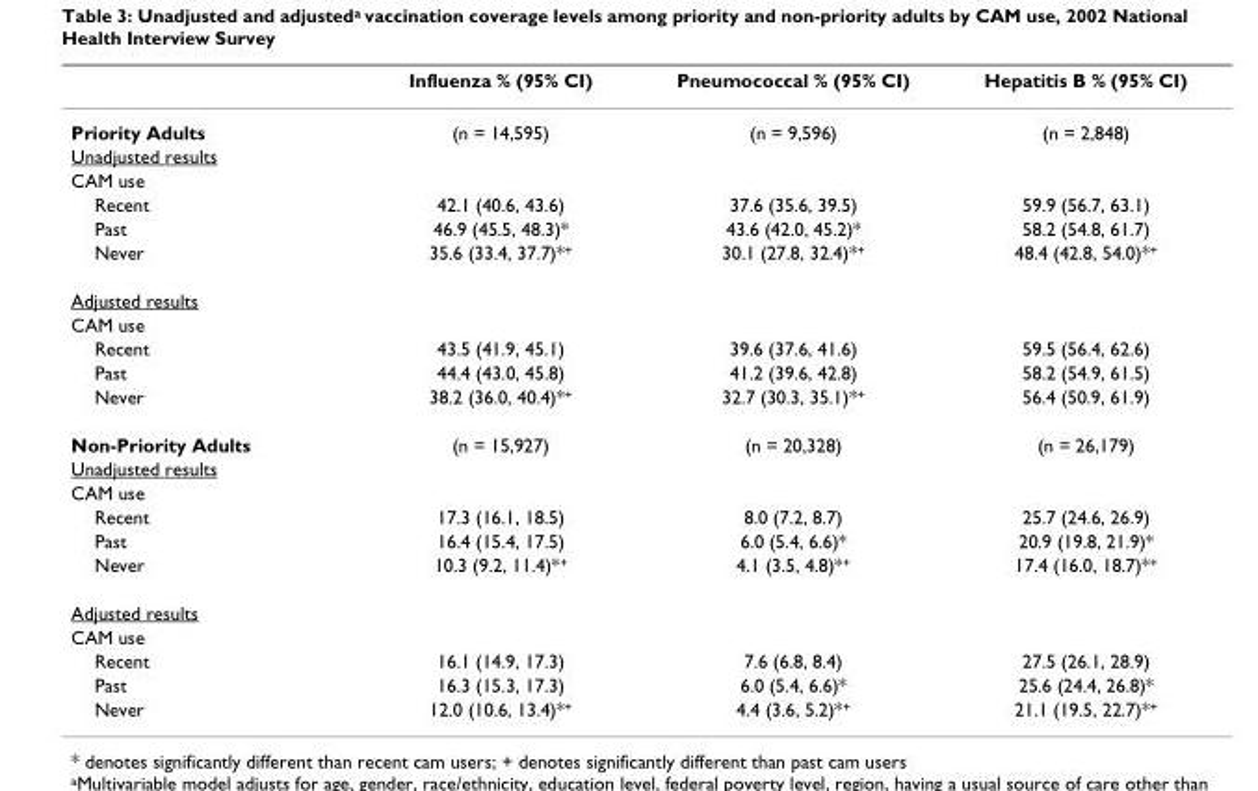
<table><thead><tr><td></td><td>Influenza % (95% CI)</td><td>Pneumococcal % (95% CI)</td><td>Hepatitis B % (95% CI)</td></tr></thead><tbody><tr><td>Priority Adults</td><td>(n = 14,595)</td><td>(n = 9,596)</td><td>(n = 2,848)</td></tr><tr><td colspan="4">Unadjusted results</td></tr><tr><td colspan="4">CAM use</td></tr><tr><td>Recent</td><td>42.1 (40.6, 43.6)</td><td>37.6 (35.6, 39.5)</td><td>59.9 (56.7, 63.1)</td></tr><tr><td>Past</td><td>46.9 (45.5, 48.3)*</td><td>43.6 (42.0, 45.2)*</td><td>58.2 (54.8, 61.7)</td></tr><tr><td>Never</td><td>35.6 (33.4, 37.7)*<sup>+</sup></td><td>30.1 (27.8, 32.4)*<sup>+</sup></td><td>48.4 (42.8, 54.0)*<sup>+</sup></td></tr><tr><td colspan="4">Adjusted results</td></tr><tr><td colspan="4">CAM use</td></tr><tr><td>Recent</td><td>43.5 (41.9, 45.1)</td><td>39.6 (37.6, 41.6)</td><td>59.5 (56.4, 62.6)</td></tr><tr><td>Past</td><td>44.4 (43.0, 45.8)</td><td>41.2 (39.6, 42.8)</td><td>58.2 (54.9, 61.5)</td></tr><tr><td>Never</td><td>38.2 (36.0, 40.4)*<sup>+</sup></td><td>32.7 (30.3, 35.1)*<sup>+</sup></td><td>56.4 (50.9, 61.9)</td></tr><tr><td>Non-Priority Adults</td><td>(n = 15,927)</td><td>(n = 20,328)</td><td>(n = 26,179)</td></tr><tr><td colspan="4">Unadjusted results</td></tr><tr><td colspan="4">CAM use</td></tr><tr><td>Recent</td><td>17.3 (16.1, 18.5)</td><td>8.0 (7.2, 8.7)</td><td>25.7 (24.6, 26.9)</td></tr><tr><td>Past</td><td>16.4 (15.4, 17.5)</td><td>6.0 (5.4, 6.6)*</td><td>20.9 (19.8, 21.9)*</td></tr><tr><td>Never</td><td>10.3 (9.2, 11.4)*<sup>+</sup></td><td>4.1 (3.5, 4.8)*<sup>+</sup></td><td>17.4 (16.0, 18.7)*<sup>+</sup></td></tr><tr><td colspan="4">Adjusted results</td></tr><tr><td colspan="4">CAM use</td></tr><tr><td>Recent</td><td>16.1 (14.9, 17.3)</td><td>7.6 (6.8, 8.4)</td><td>27.5 (26.1, 28.9)</td></tr><tr><td>Past</td><td>16.3 (15.3, 17.3)</td><td>6.0 (5.4, 6.6)*</td><td>25.6 (24.4, 26.8)*</td></tr><tr><td>Never</td><td>12.0 (10.6, 13.4)*<sup>+</sup></td><td>4.4 (3.6, 5.2)*<sup>+</sup></td><td>21.1 (19.5, 22.7)*<sup>+</sup></td></tr></tbody></table>